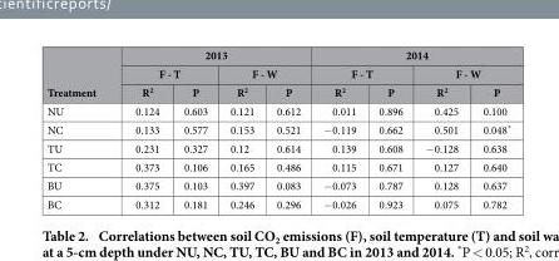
<table><thead><tr><td rowspan="3">Treatment</td><td colspan="4">2013</td><td colspan="4">2014</td></tr><tr><td colspan="2">F - T</td><td colspan="2">F - W</td><td colspan="2">F - T</td><td colspan="2">F - W</td></tr><tr><td>R<sup>2</sup></td><td>P</td><td>R<sup>2</sup></td><td>P</td><td>R<sup>2</sup></td><td>P</td><td>R<sup>2</sup></td><td>P</td></tr></thead><tbody><tr><td>NU</td><td>0.124</td><td>0.603</td><td>0.121</td><td>0.612</td><td>0.011</td><td>0.896</td><td>0.425</td><td>0.100</td></tr><tr><td>NC</td><td>0.133</td><td>0.577</td><td>0.153</td><td>0.521</td><td>− 0.119</td><td>0.662</td><td>0.501</td><td>0.048*</td></tr><tr><td>TU</td><td>0.231</td><td>0.327</td><td>0.12</td><td>0.614</td><td>0.139</td><td>0.608</td><td>− 0.128</td><td>0.638</td></tr><tr><td>TC</td><td>0.373</td><td>0.106</td><td>0.165</td><td>0.486</td><td>0.115</td><td>0.671</td><td>0.127</td><td>0.640</td></tr><tr><td>BU</td><td>0.375</td><td>0.103</td><td>0.397</td><td>0.083</td><td>− 0.073</td><td>0.787</td><td>0.128</td><td>0.637</td></tr><tr><td>BC</td><td>0.312</td><td>0.181</td><td>0.246</td><td>0.296</td><td>− 0.026</td><td>0.923</td><td>0.075</td><td>0.782</td></tr></tbody></table>